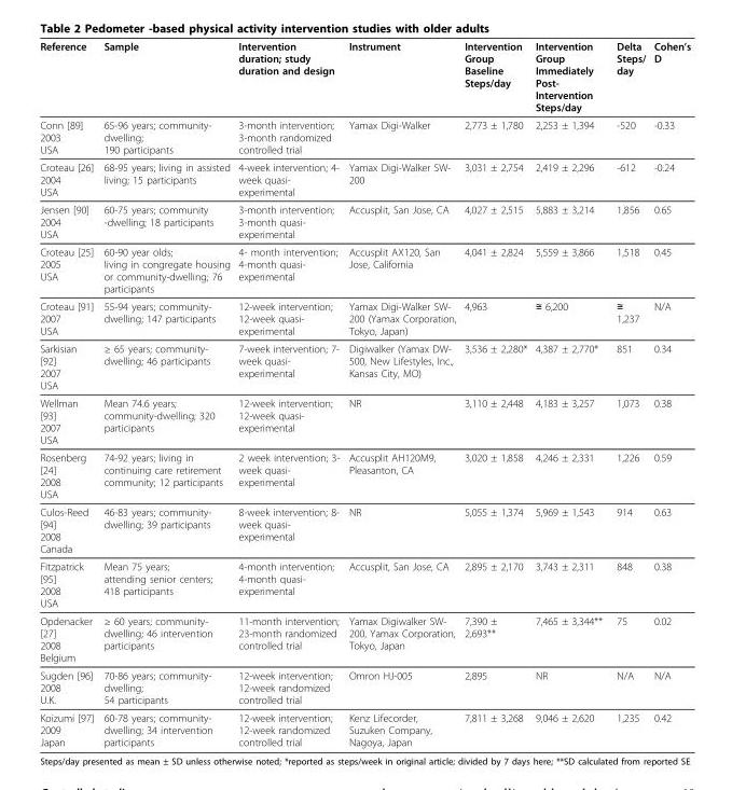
<table><thead><tr><td>Reference</td><td>Sample</td><td>Intervention duration; study duration and design</td><td>Instrument</td><td>Intervention Group Baseline Steps/day</td><td>Intervention Group Immediately Post- Intervention Steps/day</td><td>Delta Steps/ day</td><td>Cohen’s D</td></tr></thead><tbody><tr><td>Conn [89] 2003 USA</td><td>65-96 years; community- dwelling; 190 participants</td><td>3-month intervention; 3-month randomized controlled trial</td><td>Yamax Digi-Walker</td><td>2,773 ± 1,780</td><td>2,253 ± 1,394</td><td>-520</td><td>-0.33</td></tr><tr><td>Croteau [26] 2004 USA</td><td>68-95 years; living in assisted living; 15 participants</td><td>4-week intervention; 4- week quasi- experimental</td><td>Yamax Digi-Walker SW- 200</td><td>3,031 ± 2,754</td><td>2,419 ± 2,296</td><td>-612</td><td>-0.24</td></tr><tr><td>Jensen [90] 2004 USA</td><td>60-75 years; community -dwelling; 18 participants</td><td>3-month intervention; 3-month quasi- experimental</td><td>Accusplit, San Jose, CA</td><td>4,027 ± 2,515</td><td>5,883 ± 3,214</td><td>1,856</td><td>0.65</td></tr><tr><td>Croteau [25] 2005 USA</td><td>60-90 year olds; living in congregate housing or community-dwelling; 76 participants</td><td>4- month intervention; 4-month quasi- experimental</td><td>Accusplit AX120, San Jose, California</td><td>4,041 ± 2,824</td><td>5,559 ± 3,866</td><td>1,518</td><td>0.45</td></tr><tr><td>Croteau [91] 2007 USA</td><td>55-94 years; community- dwelling; 147 participants</td><td>12-week intervention; 12-week quasi- experimental</td><td>Yamax Digi-Walker SW- 200 (Yamax Corporation, Tokyo, Japan)</td><td>4,963</td><td>≅ 6,200</td><td>≅ 1,237</td><td>N/A</td></tr><tr><td>Sarkisian [92] 2007 USA</td><td>≥ 65 years; community- dwelling; 46 participants</td><td>7-week intervention; 7- week quasi- experimental</td><td>Digiwalker (Yamax DW- 500, New Lifestyles, Inc., Kansas City, MO)</td><td>3,536 ± 2,280*</td><td>4,387 ± 2,770*</td><td>851</td><td>0.34</td></tr><tr><td>Wellman [93] 2007 USA</td><td>Mean 74.6 years; community-dwelling; 320 participants</td><td>12-week intervention; 12-week quasi- experimental</td><td>NR</td><td>3,110 ± 2,448</td><td>4,183 ± 3,257</td><td>1,073</td><td>0.38</td></tr><tr><td>Rosenberg [24] 2008 USA</td><td>74-92 years; living in continuing care retirement community; 12 participants</td><td>2 week intervention; 3- week quasi- experimental</td><td>Accusplit AH120M9, Pleasanton, CA</td><td>3,020 ± 1,858</td><td>4,246 ± 2,331</td><td>1,226</td><td>0.59</td></tr><tr><td>Culos-Reed [94] 2008 Canada</td><td>46-83 years; community- dwelling; 39 participants</td><td>8-week intervention; 8- week quasi- experimental</td><td>NR</td><td>5,055 ± 1,374</td><td>5,969 ± 1,543</td><td>914</td><td>0.63</td></tr><tr><td>Fitzpatrick [95] 2008 USA</td><td>Mean 75 years; attending senior centers; 418 participants</td><td>4-month intervention; 4-month quasi- experimental</td><td>Accusplit, San Jose, CA</td><td>2,895 ± 2,170</td><td>3,743 ± 2,311</td><td>848</td><td>0.38</td></tr><tr><td>Opdenacker [27] 2008 Belgium</td><td>≥ 60 years; community- dwelling; 46 intervention participants</td><td>11-month intervention; 23-month randomized controlled trial</td><td>Yamax Digiwalker SW- 200, Yamax Corporation, Tokyo, Japan</td><td>7,390 ± 2,693**</td><td>7,465 ± 3,344**</td><td>75</td><td>0.02</td></tr><tr><td>Sugden [96] 2008 U.K.</td><td>70-86 years; community- dwelling; 54 participants</td><td>12-week intervention; 12-week randomized controlled trial</td><td>Omron HJ-005</td><td>2,895</td><td>NR</td><td>N/A</td><td>N/A</td></tr><tr><td>Koizumi [97] 2009 Japan</td><td>60-78 years; community- dwelling; 34 intervention participants</td><td>12-week intervention; 12-week randomized controlled trial</td><td>Kenz Lifecorder, Suzuken Company, Nagoya, Japan</td><td>7,811 ± 3,268</td><td>9,046 ± 2,620</td><td>1,235</td><td>0.42</td></tr></tbody></table>